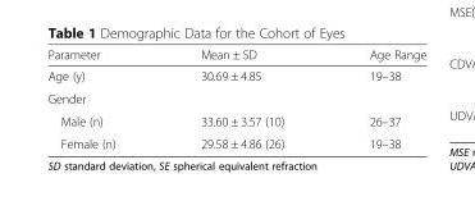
<table><thead><tr><td>Parameter</td><td>Mean ± SD</td><td>Age Range</td></tr></thead><tbody><tr><td>Age (y)</td><td>30.69 ± 4.85</td><td>19–38</td></tr><tr><td colspan="3">Gender</td></tr><tr><td>Male (n)</td><td>33.60 ± 3.57 (10)</td><td>26–37</td></tr><tr><td>Female (n)</td><td>29.58 ± 4.86 (26)</td><td>19–38</td></tr></tbody></table>